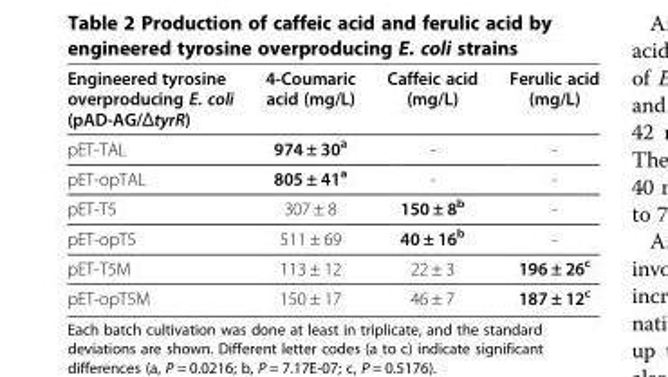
<table><thead><tr><td>Engineered tyrosine overproducing E. coli (pAD-AG/ΔtyrR)</td><td>4-Coumaric acid (mg/L)</td><td>Caffeic acid (mg/L)</td><td>Ferulic acid (mg/L)</td></tr></thead><tbody><tr><td>pET-TAL</td><td>974 ± 30<sup>a</sup></td><td>-</td><td>-</td></tr><tr><td>pET-opTAL</td><td>805 ± 41<sup>a</sup></td><td>-</td><td>-</td></tr><tr><td>pET-T5</td><td>307 ± 8</td><td>150 ± 8<sup>b</sup></td><td>-</td></tr><tr><td>pET-opT5</td><td>511 ± 69</td><td>40 ± 16<sup>b</sup></td><td>-</td></tr><tr><td>pET-T5M</td><td>113 ± 12</td><td>22 ± 3</td><td>196 ± 26<sup>c</sup></td></tr><tr><td>pET-opT5M</td><td>150 ± 17</td><td>46 ± 7</td><td>187 ± 12<sup>c</sup></td></tr></tbody></table>